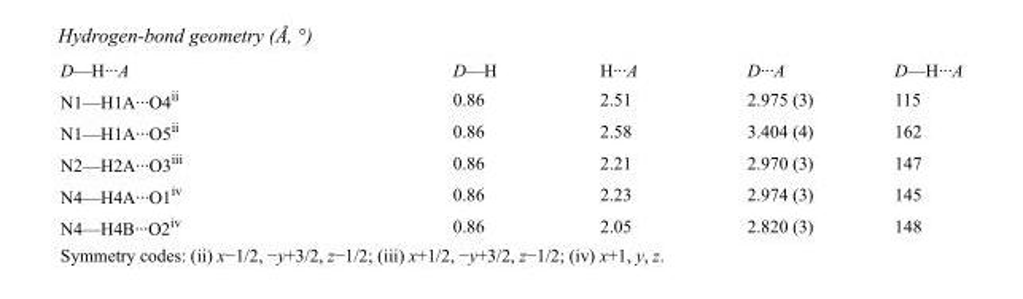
<table><tbody><tr><td>D—H···A</td><td>D—H</td><td>H···A</td><td>D···A</td><td>D—H···A</td></tr><tr><td>N1—H1A···O4<sup>ii</sup></td><td>0.86</td><td>2.51</td><td>2.975 (3)</td><td>115</td></tr><tr><td>N1—H1A···O5<sup>ii</sup></td><td>0.86</td><td>2.58</td><td>3.404 (4)</td><td>162</td></tr><tr><td>N2—H2A···O3<sup>iii</sup></td><td>0.86</td><td>2.21</td><td>2.970 (3)</td><td>147</td></tr><tr><td>N4—H4A···O1<sup>iv</sup></td><td>0.86</td><td>2.23</td><td>2.974 (3)</td><td>145</td></tr><tr><td>N4—H4B···O2<sup>iv</sup></td><td>0.86</td><td>2.05</td><td>2.820 (3)</td><td>148</td></tr></tbody></table>